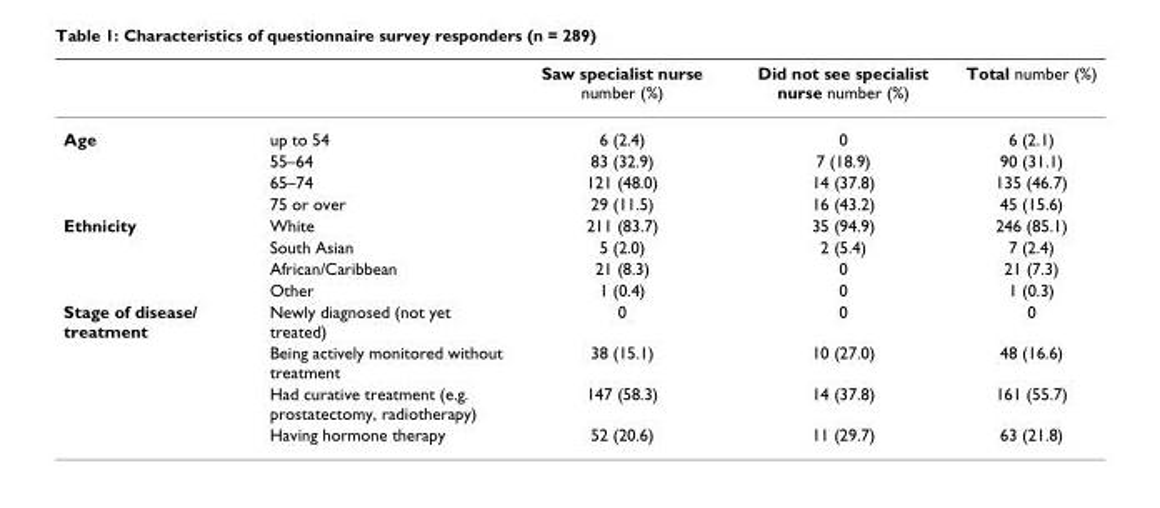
<table><thead><tr><td></td><td></td><td>Saw specialist nurse number (%)</td><td>Did not see specialist nurse number (%)</td><td>Total number (%)</td></tr></thead><tbody><tr><td rowspan="4">Age</td><td>up to 54</td><td>6 (2.4)</td><td>0</td><td>6 (2.1)</td></tr><tr><td>55–64</td><td>83 (32.9)</td><td>7 (18.9)</td><td>90 (31.1)</td></tr><tr><td>65–74</td><td>121 (48.0)</td><td>14 (37.8)</td><td>135 (46.7)</td></tr><tr><td>75 or over</td><td>29 (11.5)</td><td>16 (43.2)</td><td>45 (15.6)</td></tr><tr><td rowspan="4">Ethnicity</td><td>White</td><td>211 (83.7)</td><td>35 (94.9)</td><td>246 (85.1)</td></tr><tr><td>South Asian</td><td>5 (2.0)</td><td>2 (5.4)</td><td>7 (2.4)</td></tr><tr><td>African/Caribbean</td><td>21 (8.3)</td><td>0</td><td>21 (7.3)</td></tr><tr><td>Other</td><td>1 (0.4)</td><td>0</td><td>1 (0.3)</td></tr><tr><td rowspan="4">Stage of disease/ treatment</td><td>Newly diagnosed (not yet treated)</td><td>0</td><td>0</td><td>0</td></tr><tr><td>Being actively monitored without treatment</td><td>38 (15.1)</td><td>10 (27.0)</td><td>48 (16.6)</td></tr><tr><td>Had curative treatment (e.g. prostatectomy, radiotherapy)</td><td>147 (58.3)</td><td>14 (37.8)</td><td>161 (55.7)</td></tr><tr><td>Having hormone therapy</td><td>52 (20.6)</td><td>11 (29.7)</td><td>63 (21.8)</td></tr></tbody></table>